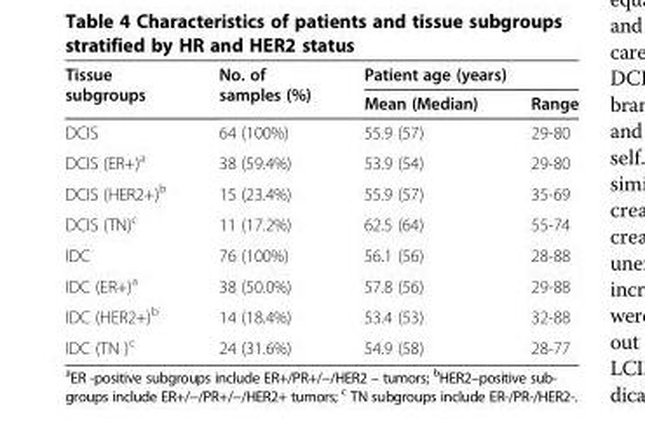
<table><thead><tr><td rowspan="2">Tissue subgroups</td><td rowspan="2">No. of samples (%)</td><td colspan="2">Patient age (years)</td></tr><tr><td>Mean (Median)</td><td>Range</td></tr></thead><tbody><tr><td>DCIS</td><td>64 (100%)</td><td>55.9 (57)</td><td>29-80</td></tr><tr><td>DCIS (ER+)<sup>a</sup></td><td>38 (59.4%)</td><td>53.9 (54)</td><td>29-80</td></tr><tr><td>DCIS (HER2+)<sup>b</sup></td><td>15 (23.4%)</td><td>55.9 (57)</td><td>35-69</td></tr><tr><td>DCIS (TN)<sup>c</sup></td><td>11 (17.2%)</td><td>62.5 (64)</td><td>55-74</td></tr><tr><td>IDC</td><td>76 (100%)</td><td>56.1 (56)</td><td>28-88</td></tr><tr><td>IDC (ER+)<sup>a</sup></td><td>38 (50.0%)</td><td>57.8 (56)</td><td>29-88</td></tr><tr><td>IDC (HER2+)<sup>b</sup></td><td>14 (18.4%)</td><td>53.4 (53)</td><td>32-88</td></tr><tr><td>IDC (TN )<sup>c</sup></td><td>24 (31.6%)</td><td>54.9 (58)</td><td>28-77</td></tr></tbody></table>